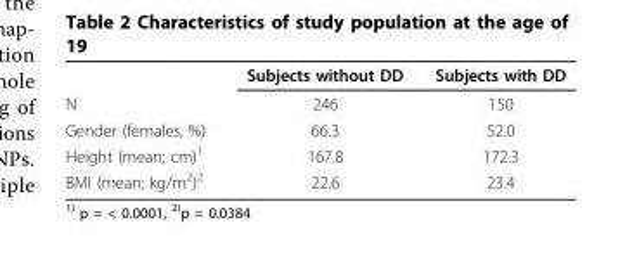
<table><thead><tr><td></td><td>Subjects without DD</td><td>Subjects with DD</td></tr></thead><tbody><tr><td>N</td><td>246</td><td>150</td></tr><tr><td>Gender (females, %)</td><td>66.3</td><td>52.0</td></tr><tr><td>Height (mean; cm)<sup>1</sup></td><td>167.8</td><td>172.3</td></tr><tr><td>BMI (mean; kg/m<sup>2</sup>)<sup>2</sup></td><td>22.6</td><td>23.4</td></tr></tbody></table>